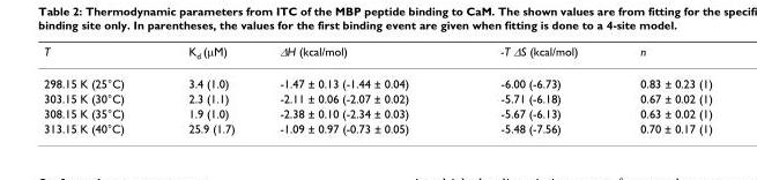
<table><thead><tr><td>T</td><td>K<sub>d</sub> (µM)</td><td>∆H (kcal/mol)</td><td>-T ∆S (kcal/mol)</td><td>n</td></tr></thead><tbody><tr><td>298.15 K (25°C)</td><td>3.4 (1.0)</td><td>-1.47 ± 0.13 (-1.44 ± 0.04)</td><td>-6.00 (-6.73)</td><td>0.83 ± 0.23 (1)</td></tr><tr><td>303.15 K (30°C)</td><td>2.3 (1.1)</td><td>-2.11 ± 0.06 (-2.07 ± 0.02)</td><td>-5.71 (-6.18)</td><td>0.67 ± 0.02 (1)</td></tr><tr><td>308.15 K (35°C)</td><td>1.9 (1.0)</td><td>-2.38 ± 0.10 (-2.34 ± 0.03)</td><td>-5.67 (-6.13)</td><td>0.63 ± 0.02 (1)</td></tr><tr><td>313.15 K (40°C)</td><td>25.9 (1.7)</td><td>-1.09 ± 0.97 (-0.73 ± 0.05)</td><td>-5.48 (-7.56)</td><td>0.70 ± 0.17 (1)</td></tr></tbody></table>